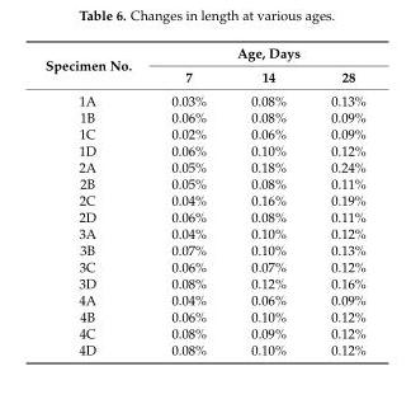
<table><thead><tr><td rowspan="2">Specimen No.</td><td colspan="3">Age, Days</td></tr><tr><td>7</td><td>14</td><td>28</td></tr></thead><tbody><tr><td>1A</td><td>0.03%</td><td>0.08%</td><td>0.13%</td></tr><tr><td>1B</td><td>0.06%</td><td>0.08%</td><td>0.09%</td></tr><tr><td>1C</td><td>0.02%</td><td>0.06%</td><td>0.09%</td></tr><tr><td>1D</td><td>0.06%</td><td>0.10%</td><td>0.12%</td></tr><tr><td>2A</td><td>0.05%</td><td>0.18%</td><td>0.24%</td></tr><tr><td>2B</td><td>0.05%</td><td>0.08%</td><td>0.11%</td></tr><tr><td>2C</td><td>0.04%</td><td>0.16%</td><td>0.19%</td></tr><tr><td>2D</td><td>0.06%</td><td>0.08%</td><td>0.11%</td></tr><tr><td>3A</td><td>0.04%</td><td>0.10%</td><td>0.12%</td></tr><tr><td>3B</td><td>0.07%</td><td>0.10%</td><td>0.13%</td></tr><tr><td>3C</td><td>0.06%</td><td>0.07%</td><td>0.12%</td></tr><tr><td>3D</td><td>0.08%</td><td>0.12%</td><td>0.16%</td></tr><tr><td>4A</td><td>0.04%</td><td>0.06%</td><td>0.09%</td></tr><tr><td>4B</td><td>0.06%</td><td>0.10%</td><td>0.12%</td></tr><tr><td>4C</td><td>0.08%</td><td>0.09%</td><td>0.12%</td></tr><tr><td>4D</td><td>0.08%</td><td>0.10%</td><td>0.12%</td></tr></tbody></table>